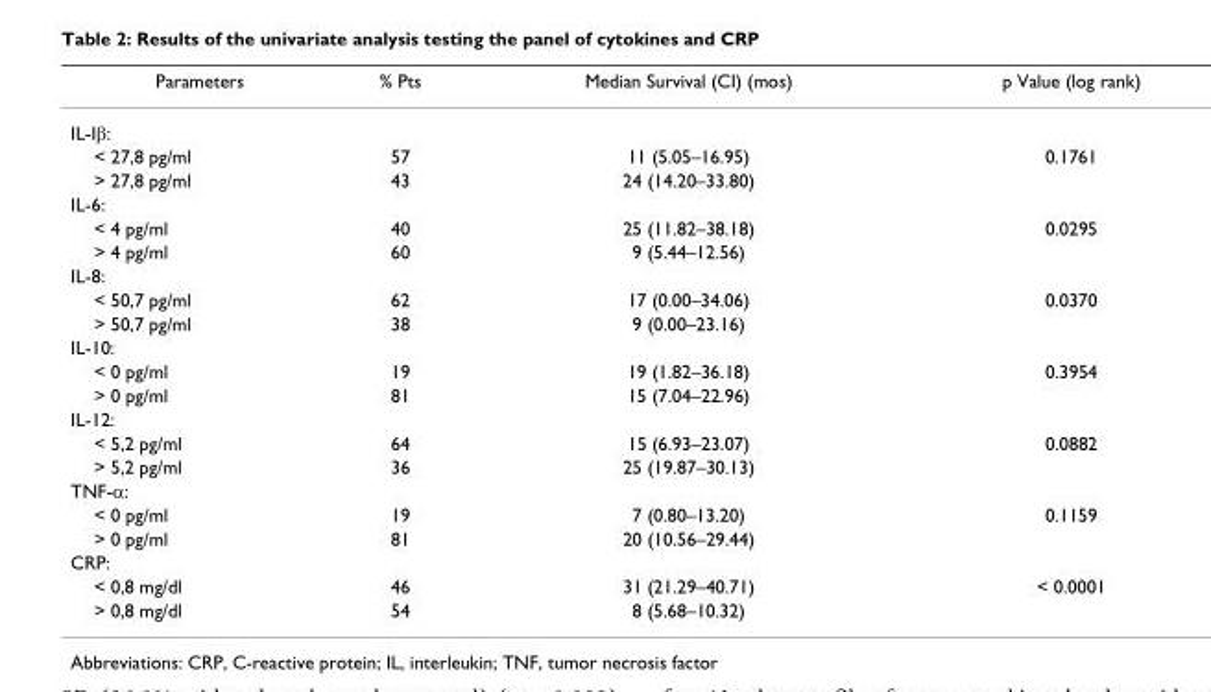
<table><thead><tr><td>Parameters</td><td>% Pts</td><td>Median Survival (CI) (mos)</td><td>p Value (log rank)</td></tr></thead><tbody><tr><td colspan="4">IL-Iβ:</td></tr><tr><td>&lt; 27,8 pg/ml</td><td>57</td><td>11 (5.05–16.95)</td><td>0.1761</td></tr><tr><td>&gt; 27,8 pg/ml</td><td>43</td><td>24 (14.20–33.80)</td><td></td></tr><tr><td colspan="4">IL-6:</td></tr><tr><td>&lt; 4 pg/ml</td><td>40</td><td>25 (11.82–38.18)</td><td>0.0295</td></tr><tr><td>&gt; 4 pg/ml</td><td>60</td><td>9 (5.44–12.56)</td><td></td></tr><tr><td colspan="4">IL-8:</td></tr><tr><td>&lt; 50,7 pg/ml</td><td>62</td><td>17 (0.00–34.06)</td><td>0.0370</td></tr><tr><td>&gt; 50,7 pg/ml</td><td>38</td><td>9 (0.00–23.16)</td><td></td></tr><tr><td colspan="4">IL-10:</td></tr><tr><td>&lt; 0 pg/ml</td><td>19</td><td>19 (1.82–36.18)</td><td>0.3954</td></tr><tr><td>&gt; 0 pg/ml</td><td>81</td><td>15 (7.04–22.96)</td><td></td></tr><tr><td colspan="4">IL-12:</td></tr><tr><td>&lt; 5,2 pg/ml</td><td>64</td><td>15 (6.93–23.07)</td><td>0.0882</td></tr><tr><td>&gt; 5,2 pg/ml</td><td>36</td><td>25 (19.87–30.13)</td><td></td></tr><tr><td colspan="4">TNF-α:</td></tr><tr><td>&lt; 0 pg/ml</td><td>19</td><td>7 (0.80–13.20)</td><td>0.1159</td></tr><tr><td>&gt; 0 pg/ml</td><td>81</td><td>20 (10.56–29.44)</td><td></td></tr><tr><td colspan="4">CRP:</td></tr><tr><td>&lt; 0,8 mg/dl</td><td>46</td><td>31 (21.29–40.71)</td><td>&lt; 0.0001</td></tr><tr><td>&gt; 0,8 mg/dl</td><td>54</td><td>8 (5.68–10.32)</td><td></td></tr></tbody></table>